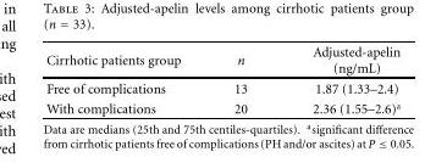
<table><thead><tr><td>Cirrhotic patients group</td><td>n</td><td>Adjusted-apelin (ng/mL)</td></tr></thead><tbody><tr><td>Free of complications</td><td>13</td><td>1.87 (1.33–2.4)</td></tr><tr><td>With complications</td><td>20</td><td>2.36 (1.55–2.6)<sup>a</sup></td></tr></tbody></table>